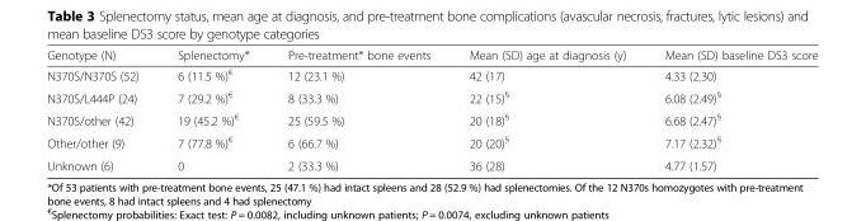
<table><thead><tr><td>Genotype (N)</td><td>Splenectomy*</td><td>Pre-treatment* bone events</td><td>Mean (SD) age at diagnosis (y)</td><td>Mean (SD) baseline DS3 score</td></tr></thead><tbody><tr><td>N370S/N370S (52)</td><td>6 (11.5 %)<sup>€</sup></td><td>12 (23.1 %)</td><td>42 (17)</td><td>4.33 (2.30)</td></tr><tr><td>N370S/L444P (24)</td><td>7 (29.2 %)<sup>€</sup></td><td>8 (33.3 %)</td><td>22 (15)<sup>§</sup></td><td>6.08 (2.49)<sup>§</sup></td></tr><tr><td>N370S/other (42)</td><td>19 (45.2 %)<sup>€</sup></td><td>25 (59.5 %)</td><td>20 (18)<sup>§</sup></td><td>6.68 (2.47)<sup>§</sup></td></tr><tr><td>Other/other (9)</td><td>7 (77.8 %)<sup>€</sup></td><td>6 (66.7 %)</td><td>20 (20)<sup>§</sup></td><td>7.17 (2.32)<sup>§</sup></td></tr><tr><td>Unknown (6)</td><td>0</td><td>2 (33.3 %)</td><td>36 (28)</td><td>4.77 (1.57)</td></tr></tbody></table>